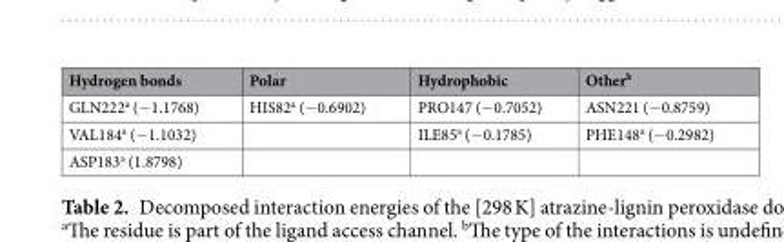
<table><thead><tr><td>Hydrogen bonds</td><td>Polar</td><td>Hydrophobic</td><td>Other<sup>b</sup></td></tr></thead><tbody><tr><td>GLN222<sup>a</sup> (−1.1768)</td><td>HIS82<sup>a</sup> (−0.6902)</td><td>PRO147 (−0.7052)</td><td>ASN221 (−0.8759)</td></tr><tr><td>VAL184<sup>a</sup> (−1.1032)</td><td></td><td>ILE85<sup>a</sup> (−0.1785)</td><td>PHE148<sup>a</sup> (−0.2982)</td></tr><tr><td>ASP183<sup>a</sup> (1.8798)</td><td></td><td></td><td></td></tr></tbody></table>